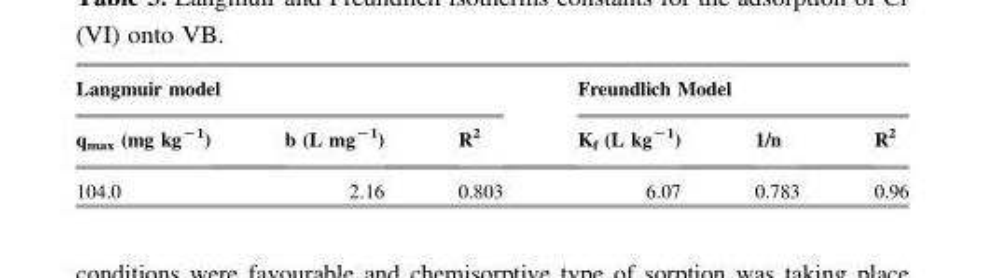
<table><thead><tr><td colspan="3">Langmuir model</td><td colspan="3">Freundlich Model</td></tr><tr><td>q<sub>max</sub> (mg kg<sup>−1</sup>)</td><td>b (L mg<sup>−1</sup>)</td><td>R<sup>2</sup></td><td>K<sub>f</sub> (L kg<sup>−1</sup>)</td><td>1/n</td><td>R<sup>2</sup></td></tr></thead><tbody><tr><td>104.0</td><td>2.16</td><td>0.803</td><td>6.07</td><td>0.783</td><td>0.96</td></tr></tbody></table>